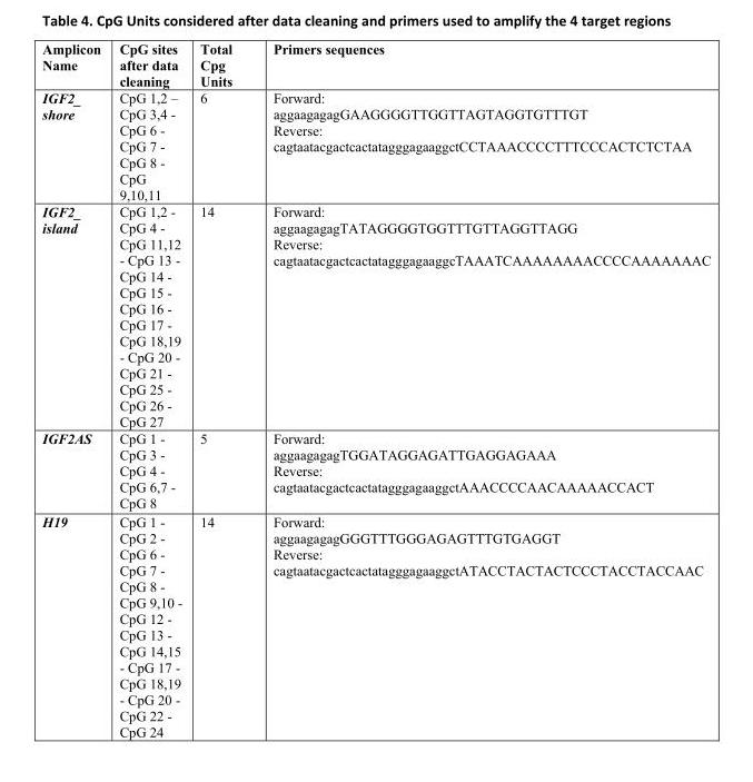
<table><thead><tr><td>Amplicon Name</td><td>CpG sites after data cleaning</td><td>Total Cpg Units</td><td>Primers sequences</td></tr></thead><tbody><tr><td>IGF2_ shore</td><td>CpG 1,2 – CpG 3,4 - CpG 6 - CpG 7 - CpG 8 - CpG 9,10,11</td><td>6</td><td>Forward: aggaagagagGAAGGGGTTGGTTAGTAGGTGTTTGT Reverse: cagtaatacgactcactatagggagaaggctCCTAAACCCCTTTCCCACTCTCTAA</td></tr><tr><td>IGF2_ island</td><td>CpG 1,2 - CpG 4 - CpG 11,12 - CpG 13 - CpG 14 - CpG 15 - CpG 16 - CpG 17 - CpG 18,19 - CpG 20 - CpG 21 - CpG 25 - CpG 26 - CpG 27</td><td>14</td><td>Forward: aggaagagagTATAGGGGTGGTTTGTTAGGTTAGG Reverse: cagtaatacgactcactatagggagaaggcTAAATCAAAAAAAACCCCAAAAAAAC</td></tr><tr><td>IGF2AS</td><td>CpG 1 - CpG 3 - CpG 4 - CpG 6,7 - CpG 8</td><td>5</td><td>Forward: aggaagagagTGGATAGGAGATTGAGGAGAAA Reverse: cagtaatacgactcactatagggagaaggctAAACCCCAACAAAAACCACT</td></tr><tr><td>H19</td><td>CpG 1 - CpG 2 - CpG 6 - CpG 7 - CpG 8 - CpG 9,10 - CpG 12 - CpG 13 - CpG 14,15 - CpG 17 - CpG 18,19 - CpG 20 - CpG 22 - CpG 24</td><td>14</td><td>Forward: aggaagagagGGGTTTGGGAGAGTTTGTGAGGT Reverse: cagtaatacgactcactatagggagaaggctATACCTACTACTCCCTACCTACCAAC</td></tr></tbody></table>